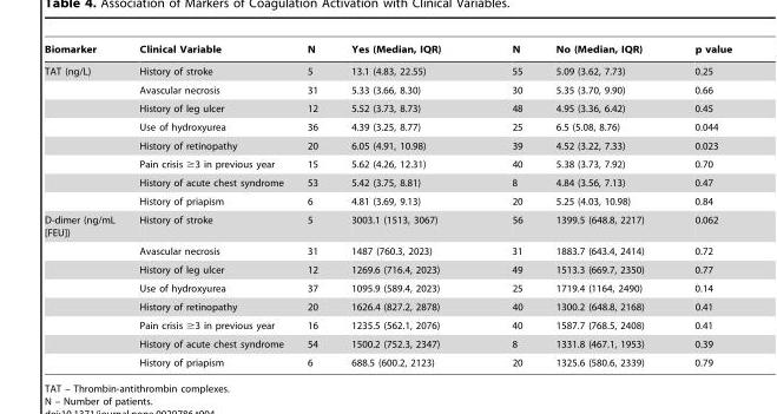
<table><thead><tr><td>Biomarker</td><td>Clinical Variable</td><td>N</td><td>Yes (Median, IQR)</td><td>N</td><td>No (Median, IQR)</td><td>p value</td></tr></thead><tbody><tr><td rowspan="8">TAT (ng/L)</td><td>History of stroke</td><td>5</td><td>13.1 (4.83, 22.55)</td><td>55</td><td>5.09 (3.62, 7.73)</td><td>0.25</td></tr><tr><td>Avascular necrosis</td><td>31</td><td>5.33 (3.66, 8.30)</td><td>30</td><td>5.35 (3.70, 9.90)</td><td>0.66</td></tr><tr><td>History of leg ulcer</td><td>12</td><td>5.52 (3.73, 8.73)</td><td>48</td><td>4.95 (3.36, 6.42)</td><td>0.45</td></tr><tr><td>Use of hydroxyurea</td><td>36</td><td>4.39 (3.25, 8.77)</td><td>25</td><td>6.5 (5.08, 8.76)</td><td>0.044</td></tr><tr><td>History of retinopathy</td><td>20</td><td>6.05 (4.91, 10.98)</td><td>39</td><td>4.52 (3.22, 7.33)</td><td>0.023</td></tr><tr><td>Pain crisis ≥3 in previous year</td><td>15</td><td>5.62 (4.26, 12.31)</td><td>40</td><td>5.38 (3.73, 7.92)</td><td>0.70</td></tr><tr><td>History of acute chest syndrome</td><td>53</td><td>5.42 (3.75, 8.81)</td><td>8</td><td>4.84 (3.56, 7.13)</td><td>0.47</td></tr><tr><td>History of priapism</td><td>6</td><td>4.81 (3.69, 9.13)</td><td>20</td><td>5.25 (4.03, 10.98)</td><td>0.84</td></tr><tr><td rowspan="8">D-dimer (ng/mL [FEU])</td><td>History of stroke</td><td>5</td><td>3003.1 (1513, 3067)</td><td>56</td><td>1399.5 (648.8, 2217)</td><td>0.062</td></tr><tr><td>Avascular necrosis</td><td>31</td><td>1487 (760.3, 2023)</td><td>31</td><td>1883.7 (643.4, 2414)</td><td>0.72</td></tr><tr><td>History of leg ulcer</td><td>12</td><td>1269.6 (716.4, 2023)</td><td>49</td><td>1513.3 (669.7, 2350)</td><td>0.77</td></tr><tr><td>Use of hydroxyurea</td><td>37</td><td>1095.9 (589.4, 2023)</td><td>25</td><td>1719.4 (1164, 2490)</td><td>0.14</td></tr><tr><td>History of retinopathy</td><td>20</td><td>1626.4 (827.2, 2878)</td><td>40</td><td>1300.2 (648.8, 2168)</td><td>0.41</td></tr><tr><td>Pain crisis ≥3 in previous year</td><td>16</td><td>1235.5 (562.1, 2076)</td><td>40</td><td>1587.7 (768.5, 2408)</td><td>0.41</td></tr><tr><td>History of acute chest syndrome</td><td>54</td><td>1500.2 (752.3, 2347)</td><td>8</td><td>1331.8 (467.1, 1953)</td><td>0.39</td></tr><tr><td>History of priapism</td><td>6</td><td>688.5 (600.2, 2123)</td><td>20</td><td>1325.6 (580.6, 2339)</td><td>0.79</td></tr></tbody></table>